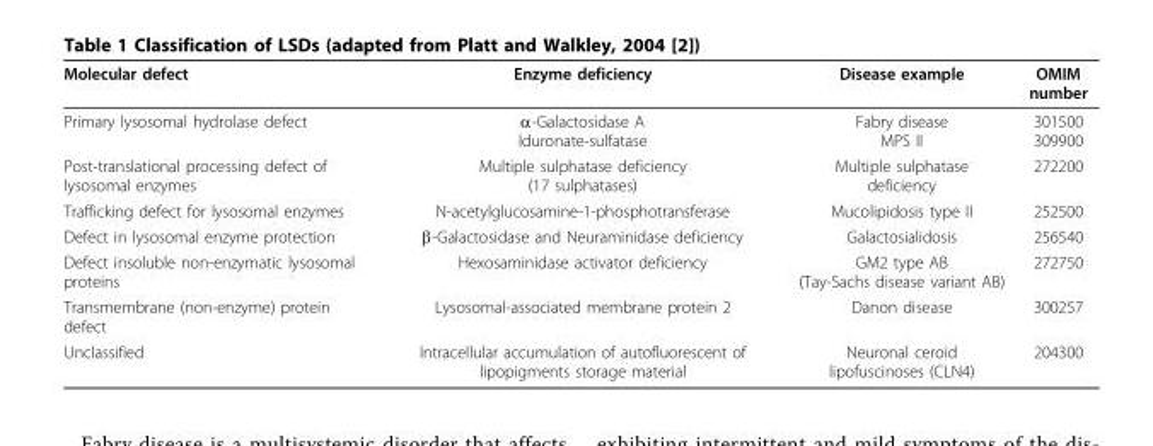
<table><thead><tr><td>Molecular defect</td><td>Enzyme deficiency</td><td>Disease example</td><td>OMIM number</td></tr></thead><tbody><tr><td>Primary lysosomal hydrolase defect</td><td>α-Galactosidase A Iduronate-sulfatase</td><td>Fabry disease MPS II</td><td>301500 309900</td></tr><tr><td>Post-translational processing defect of lysosomal enzymes</td><td>Multiple sulphatase deficiency (17 sulphatases)</td><td>Multiple sulphatase deficiency</td><td>272200</td></tr><tr><td>Trafficking defect for lysosomal enzymes</td><td>N-acetylglucosamine-1-phosphotransferase</td><td>Mucolipidosis type II</td><td>252500</td></tr><tr><td>Defect in lysosomal enzyme protection</td><td>β-Galactosidase and Neuraminidase deficiency</td><td>Galactosialidosis</td><td>256540</td></tr><tr><td>Defect insoluble non-enzymatic lysosomal proteins</td><td>Hexosaminidase activator deficiency</td><td>GM2 type AB (Tay-Sachs disease variant AB)</td><td>272750</td></tr><tr><td>Transmembrane (non-enzyme) protein defect</td><td>Lysosomal-associated membrane protein 2</td><td>Danon disease</td><td>300257</td></tr><tr><td>Unclassified</td><td>Intracellular accumulation of autofluorescent of lipopigments storage material</td><td>Neuronal ceroid lipofuscinoses (CLN4)</td><td>204300</td></tr></tbody></table>